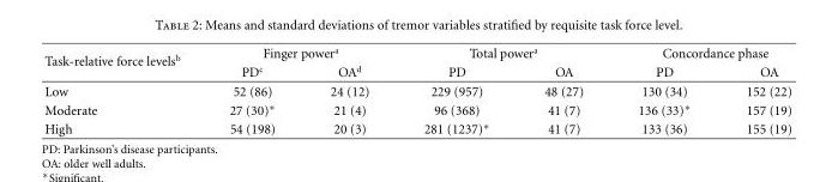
<table><thead><tr><td rowspan="2">Task-relative force levels<sup>b</sup></td><td colspan="2">Finger power<sup>a</sup></td><td colspan="2">Total power<sup>a</sup></td><td colspan="2">Concordance phase</td></tr><tr><td>PD<sup>c</sup></td><td>OA<sup>d</sup></td><td>PD</td><td>OA</td><td>PD</td><td>OA</td></tr></thead><tbody><tr><td>Low</td><td>52 (86)</td><td>24 (12)</td><td>229 (957)</td><td>48 (27)</td><td>130 (34)</td><td>152 (22)</td></tr><tr><td>Moderate</td><td>27 (30)∗</td><td>21 (4)</td><td>96 (368)</td><td>41 (7)</td><td>136 (33)∗</td><td>157 (19)</td></tr><tr><td>High</td><td>54 (198)</td><td>20 (3)</td><td>281 (1237)∗</td><td>41 (7)</td><td>133 (36)</td><td>155 (19)</td></tr></tbody></table>